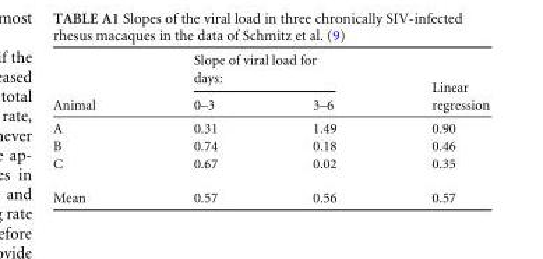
<table><thead><tr><td rowspan="2">Animal</td><td colspan="2">Slope of viral load for days:</td><td rowspan="2">Linear regression</td></tr><tr><td>0–3</td><td>3–6</td></tr></thead><tbody><tr><td>A</td><td>0.31</td><td>1.49</td><td>0.90</td></tr><tr><td>B</td><td>0.74</td><td>0.18</td><td>0.46</td></tr><tr><td>C</td><td>0.67</td><td>0.02</td><td>0.35</td></tr><tr><td>Mean</td><td>0.57</td><td>0.56</td><td>0.57</td></tr></tbody></table>